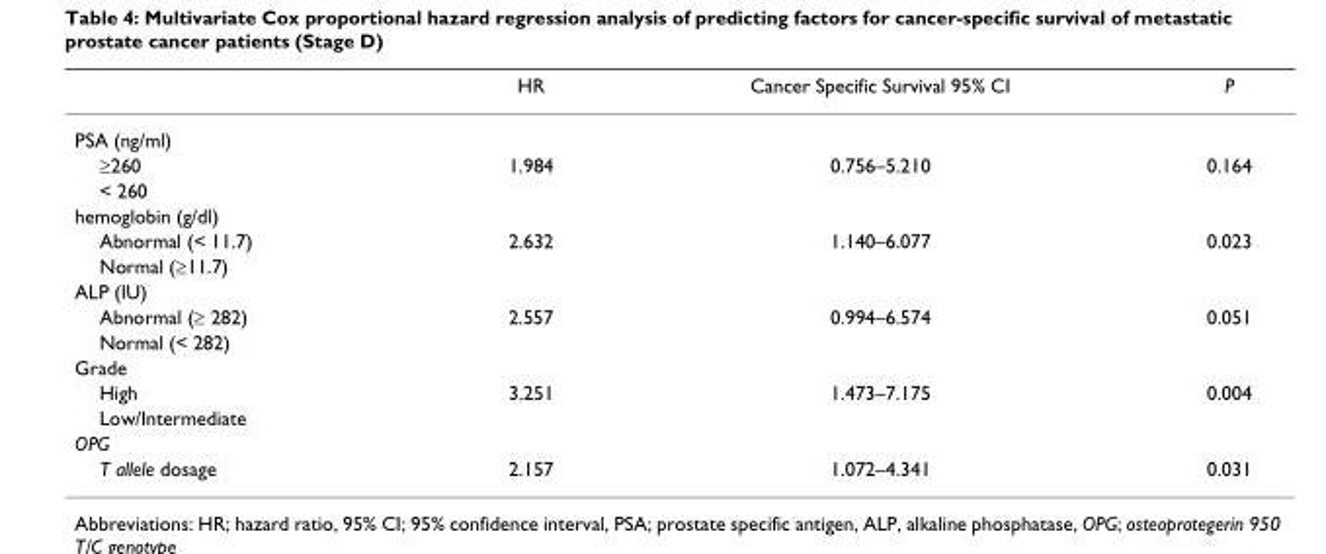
<table><thead><tr><td></td><td>HR</td><td>Cancer Specific Survival 95% CI</td><td>P</td></tr></thead><tbody><tr><td colspan="4">PSA (ng/ml)</td></tr><tr><td>≥260</td><td>1.984</td><td>0.756–5.210</td><td>0.164</td></tr><tr><td colspan="4">&lt; 260</td></tr><tr><td colspan="4">hemoglobin (g/dl)</td></tr><tr><td>Abnormal (&lt; 11.7)</td><td>2.632</td><td>1.140–6.077</td><td>0.023</td></tr><tr><td colspan="4">Normal (≥11.7)</td></tr><tr><td colspan="4">ALP (IU)</td></tr><tr><td>Abnormal (≥ 282)</td><td>2.557</td><td>0.994–6.574</td><td>0.051</td></tr><tr><td colspan="4">Normal (&lt; 282)</td></tr><tr><td colspan="4">Grade</td></tr><tr><td>High</td><td>3.251</td><td>1.473–7.175</td><td>0.004</td></tr><tr><td colspan="4">Low/Intermediate</td></tr><tr><td colspan="4">OPG</td></tr><tr><td>T allele dosage</td><td>2.157</td><td>1.072–4.341</td><td>0.031</td></tr></tbody></table>